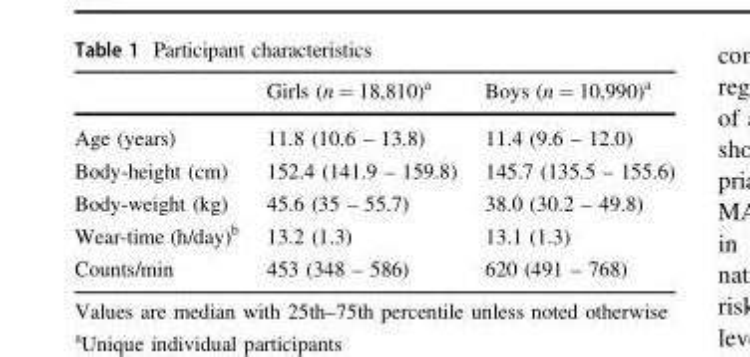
<table><thead><tr><td></td><td>Girls (n = 18,810)<sup>a</sup></td><td>Boys (n = 10,990)<sup>a</sup></td></tr></thead><tbody><tr><td>Age (years)</td><td>11.8 (10.6 – 13.8)</td><td>11.4 (9.6 – 12.0)</td></tr><tr><td>Body-height (cm)</td><td>152.4 (141.9 – 159.8)</td><td>145.7 (135.5 – 155.6)</td></tr><tr><td>Body-weight (kg)</td><td>45.6 (35 – 55.7)</td><td>38.0 (30.2 – 49.8)</td></tr><tr><td>Wear-time (h/day)<sup>b</sup></td><td>13.2 (1.3)</td><td>13.1 (1.3)</td></tr><tr><td>Counts/min</td><td>453 (348 – 586)</td><td>620 (491 – 768)</td></tr></tbody></table>